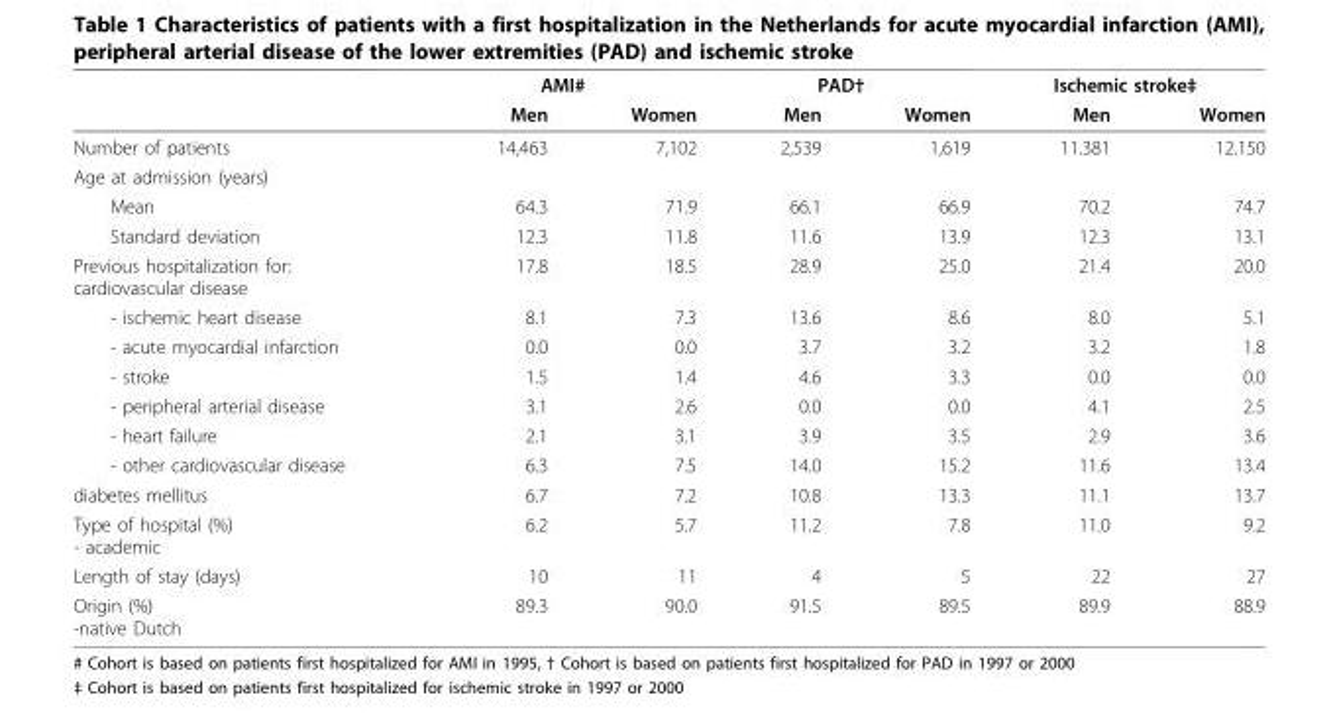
<table><thead><tr><td rowspan="2"></td><td colspan="2">AMI#</td><td colspan="2">PAD†</td><td colspan="2">Ischemic stroke‡</td></tr><tr><td>Men</td><td>Women</td><td>Men</td><td>Women</td><td>Men</td><td>Women</td></tr></thead><tbody><tr><td>Number of patients</td><td>14,463</td><td>7,102</td><td>2,539</td><td>1,619</td><td>11.381</td><td>12.150</td></tr><tr><td colspan="7">Age at admission (years)</td></tr><tr><td>Mean</td><td>64.3</td><td>71.9</td><td>66.1</td><td>66.9</td><td>70.2</td><td>74.7</td></tr><tr><td>Standard deviation</td><td>12.3</td><td>11.8</td><td>11.6</td><td>13.9</td><td>12.3</td><td>13.1</td></tr><tr><td>Previous hospitalization for: cardiovascular disease</td><td>17.8</td><td>18.5</td><td>28.9</td><td>25.0</td><td>21.4</td><td>20.0</td></tr><tr><td>- ischemic heart disease</td><td>8.1</td><td>7.3</td><td>13.6</td><td>8.6</td><td>8.0</td><td>5.1</td></tr><tr><td>- acute myocardial infarction</td><td>0.0</td><td>0.0</td><td>3.7</td><td>3.2</td><td>3.2</td><td>1.8</td></tr><tr><td>- stroke</td><td>1.5</td><td>1.4</td><td>4.6</td><td>3.3</td><td>0.0</td><td>0.0</td></tr><tr><td>- peripheral arterial disease</td><td>3.1</td><td>2.6</td><td>0.0</td><td>0.0</td><td>4.1</td><td>2.5</td></tr><tr><td>- heart failure</td><td>2.1</td><td>3.1</td><td>3.9</td><td>3.5</td><td>2.9</td><td>3.6</td></tr><tr><td>- other cardiovascular disease</td><td>6.3</td><td>7.5</td><td>14.0</td><td>15.2</td><td>11.6</td><td>13.4</td></tr><tr><td>diabetes mellitus</td><td>6.7</td><td>7.2</td><td>10.8</td><td>13.3</td><td>11.1</td><td>13.7</td></tr><tr><td>Type of hospital (%) - academic</td><td>6.2</td><td>5.7</td><td>11.2</td><td>7.8</td><td>11.0</td><td>9.2</td></tr><tr><td>Length of stay (days)</td><td>10</td><td>11</td><td>4</td><td>5</td><td>22</td><td>27</td></tr><tr><td>Origin (%) -native Dutch</td><td>89.3</td><td>90.0</td><td>91.5</td><td>89.5</td><td>89.9</td><td>88.9</td></tr></tbody></table>